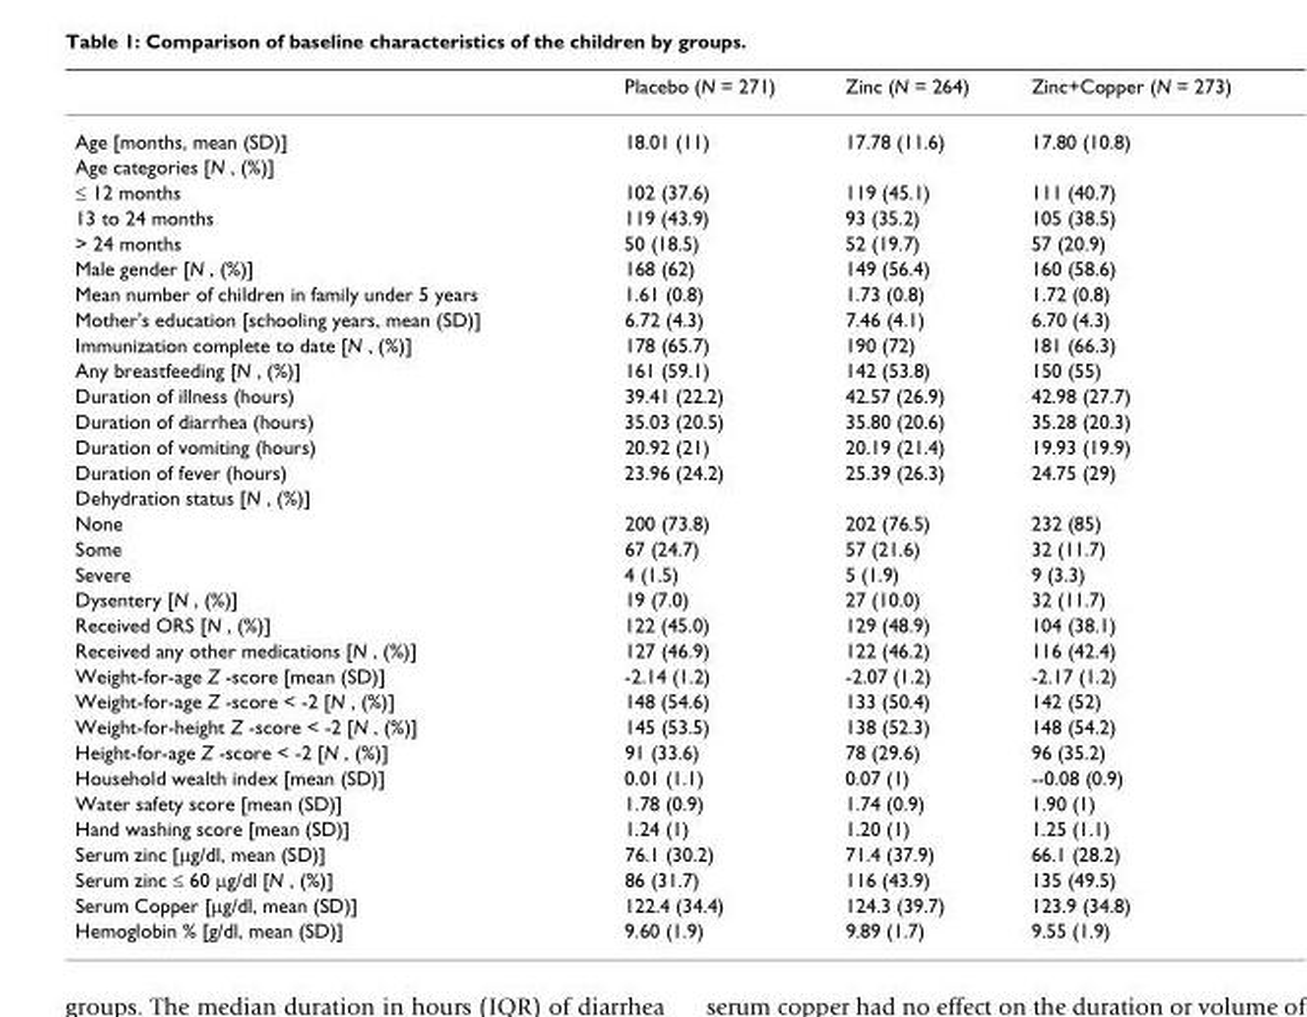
<table><thead><tr><td></td><td>Placebo (N = 271)</td><td>Zinc (N = 264)</td><td>Zinc+Copper (N = 273)</td></tr></thead><tbody><tr><td>Age [months, mean (SD)]</td><td>18.01 (11)</td><td>17.78 (11.6)</td><td>17.80 (10.8)</td></tr><tr><td colspan="4">Age categories [N , (%)]</td></tr><tr><td>≤ 12 months</td><td>102 (37.6)</td><td>119 (45.1)</td><td>111 (40.7)</td></tr><tr><td>13 to 24 months</td><td>119 (43.9)</td><td>93 (35.2)</td><td>105 (38.5)</td></tr><tr><td>&gt; 24 months</td><td>50 (18.5)</td><td>52 (19.7)</td><td>57 (20.9)</td></tr><tr><td>Male gender [N , (%)]</td><td>168 (62)</td><td>149 (56.4)</td><td>160 (58.6)</td></tr><tr><td>Mean number of children in family under 5 years</td><td>1.61 (0.8)</td><td>1.73 (0.8)</td><td>1.72 (0.8)</td></tr><tr><td>Mother&#x27;s education [schooling years, mean (SD)]</td><td>6.72 (4.3)</td><td>7.46 (4.1)</td><td>6.70 (4.3)</td></tr><tr><td>Immunization complete to date [N , (%)]</td><td>178 (65.7)</td><td>190 (72)</td><td>181 (66.3)</td></tr><tr><td>Any breastfeeding [N , (%)]</td><td>161 (59.1)</td><td>142 (53.8)</td><td>150 (55)</td></tr><tr><td>Duration of illness (hours)</td><td>39.41 (22.2)</td><td>42.57 (26.9)</td><td>42.98 (27.7)</td></tr><tr><td>Duration of diarrhea (hours)</td><td>35.03 (20.5)</td><td>35.80 (20.6)</td><td>35.28 (20.3)</td></tr><tr><td>Duration of vomiting (hours)</td><td>20.92 (21)</td><td>20.19 (21.4)</td><td>19.93 (19.9)</td></tr><tr><td>Duration of fever (hours)</td><td>23.96 (24.2)</td><td>25.39 (26.3)</td><td>24.75 (29)</td></tr><tr><td colspan="4">Dehydration status [N , (%)]</td></tr><tr><td>None</td><td>200 (73.8)</td><td>202 (76.5)</td><td>232 (85)</td></tr><tr><td>Some</td><td>67 (24.7)</td><td>57 (21.6)</td><td>32 (11.7)</td></tr><tr><td>Severe</td><td>4 (1.5)</td><td>5 (1.9)</td><td>9 (3.3)</td></tr><tr><td>Dysentery [N , (%)]</td><td>19 (7.0)</td><td>27 (10.0)</td><td>32 (11.7)</td></tr><tr><td>Received ORS [N , (%)]</td><td>122 (45.0)</td><td>129 (48.9)</td><td>104 (38.1)</td></tr><tr><td>Received any other medications [N , (%)]</td><td>127 (46.9)</td><td>122 (46.2)</td><td>116 (42.4)</td></tr><tr><td>Weight-for-age Z -score [mean (SD)]</td><td>-2.14 (1.2)</td><td>-2.07 (1.2)</td><td>-2.17 (1.2)</td></tr><tr><td>Weight-for-age Z -score &lt; -2 [N , (%)]</td><td>148 (54.6)</td><td>133 (50.4)</td><td>142 (52)</td></tr><tr><td>Weight-for-height Z -score &lt; -2 [N , (%)]</td><td>145 (53.5)</td><td>138 (52.3)</td><td>148 (54.2)</td></tr><tr><td>Height-for-age Z -score &lt; -2 [N , (%)]</td><td>91 (33.6)</td><td>78 (29.6)</td><td>96 (35.2)</td></tr><tr><td>Household wealth index [mean (SD)]</td><td>0.01 (1.1)</td><td>0.07 (1)</td><td>--0.08 (0.9)</td></tr><tr><td>Water safety score [mean (SD)]</td><td>1.78 (0.9)</td><td>1.74 (0.9)</td><td>1.90 (1)</td></tr><tr><td>Hand washing score [mean (SD)]</td><td>1.24 (1)</td><td>1.20 (1)</td><td>1.25 (1.1)</td></tr><tr><td>Serum zinc [μg/dl, mean (SD)]</td><td>76.1 (30.2)</td><td>71.4 (37.9)</td><td>66.1 (28.2)</td></tr><tr><td>Serum zinc ≤ 60 μg/dl [N , (%)]</td><td>86 (31.7)</td><td>116 (43.9)</td><td>135 (49.5)</td></tr><tr><td>Serum Copper [μg/dl, mean (SD)]</td><td>122.4 (34.4)</td><td>124.3 (39.7)</td><td>123.9 (34.8)</td></tr><tr><td>Hemoglobin % [g/dl, mean (SD)]</td><td>9.60 (1.9)</td><td>9.89 (1.7)</td><td>9.55 (1.9)</td></tr></tbody></table>